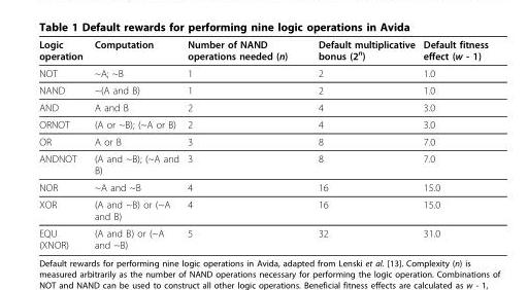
<table><thead><tr><td>Logic operation</td><td>Computation</td><td>Number of NAND operations needed (n)</td><td>Default multiplicative bonus (2<sup>n</sup>)</td><td>Default fitness effect (w - 1)</td></tr></thead><tbody><tr><td>NOT</td><td>~A; ~B</td><td>1</td><td>2</td><td>1.0</td></tr><tr><td>NAND</td><td>~(A and B)</td><td>1</td><td>2</td><td>1.0</td></tr><tr><td>AND</td><td>A and B</td><td>2</td><td>4</td><td>3.0</td></tr><tr><td>ORNOT</td><td>(A or ~B); (~A or B)</td><td>2</td><td>4</td><td>3.0</td></tr><tr><td>OR</td><td>A or B</td><td>3</td><td>8</td><td>7.0</td></tr><tr><td>ANDNOT</td><td>(A and ~B); (~A and B)</td><td>3</td><td>8</td><td>7.0</td></tr><tr><td>NOR</td><td>~A and ~B</td><td>4</td><td>16</td><td>15.0</td></tr><tr><td>XOR</td><td>(A and ~B) or (~A and B)</td><td>4</td><td>16</td><td>15.0</td></tr><tr><td>EQU (XNOR)</td><td>(A and B) or (~A and ~B)</td><td>5</td><td>32</td><td>31.0</td></tr></tbody></table>